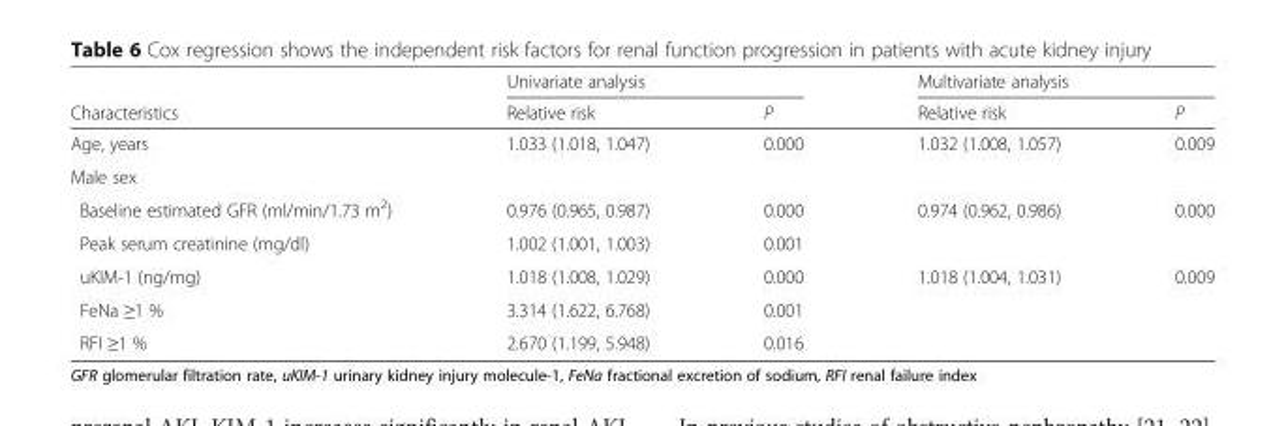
<table><thead><tr><td rowspan="2">Characteristics</td><td colspan="2">Univariate analysis</td><td colspan="2">Multivariate analysis</td></tr><tr><td>Relative risk</td><td>P</td><td>Relative risk</td><td>P</td></tr></thead><tbody><tr><td>Age, years</td><td>1.033 (1.018, 1.047)</td><td>0.000</td><td>1.032 (1.008, 1.057)</td><td>0.009</td></tr><tr><td colspan="5">Male sex</td></tr><tr><td>Baseline estimated GFR (ml/min/1.73 m<sup>2</sup>)</td><td>0.976 (0.965, 0.987)</td><td>0.000</td><td>0.974 (0.962, 0.986)</td><td>0.000</td></tr><tr><td>Peak serum creatinine (mg/dl)</td><td>1.002 (1.001, 1.003)</td><td>0.001</td><td></td><td></td></tr><tr><td>uKIM-1 (ng/mg)</td><td>1.018 (1.008, 1.029)</td><td>0.000</td><td>1.018 (1.004, 1.031)</td><td>0.009</td></tr><tr><td>FeNa ≥1 %</td><td>3.314 (1.622, 6.768)</td><td>0.001</td><td></td><td></td></tr><tr><td>RFI ≥1 %</td><td>2.670 (1.199, 5.948)</td><td>0.016</td><td></td><td></td></tr></tbody></table>